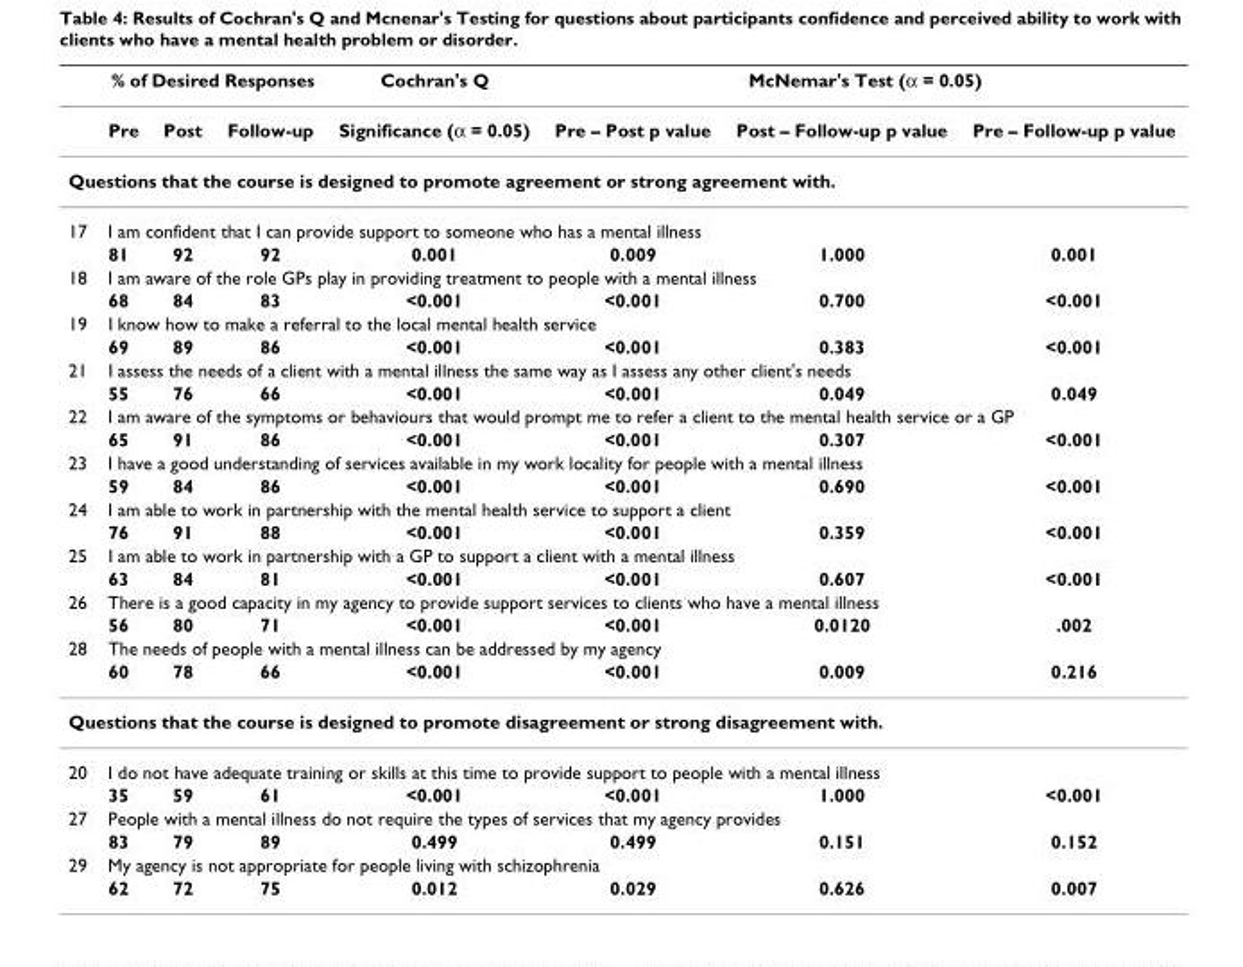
<table><thead><tr><td rowspan="2"></td><td colspan="3">% of Desired Responses</td><td rowspan="2">Cochran&#x27;s Q Significance (α = 0.05)</td><td colspan="3">McNemar&#x27;s Test (α = 0.05)</td></tr><tr><td>Pre</td><td>Post</td><td>Follow-up</td><td>Pre – Post p value</td><td>Post – Follow-up p value</td><td>Pre – Follow-up p value</td></tr></thead><tbody><tr><td colspan="8">Questions that the course is designed to promote agreement or strong agreement with.</td></tr><tr><td rowspan="2">17</td><td colspan="7">I am confident that I can provide support to someone who has a mental illness</td></tr><tr><td>81</td><td>92</td><td>92</td><td>0.001</td><td>0.009</td><td>1.000</td><td>0.001</td></tr><tr><td rowspan="2">18</td><td colspan="7">I am aware of the role GPs play in providing treatment to people with a mental illness</td></tr><tr><td>68</td><td>84</td><td>83</td><td>&lt;0.001</td><td>&lt;0.001</td><td>0.700</td><td>&lt;0.001</td></tr><tr><td rowspan="2">19</td><td colspan="7">I know how to make a referral to the local mental health service</td></tr><tr><td>69</td><td>89</td><td>86</td><td>&lt;0.001</td><td>&lt;0.001</td><td>0.383</td><td>&lt;0.001</td></tr><tr><td rowspan="2">21</td><td colspan="7">I assess the needs of a client with a mental illness the same way as I assess any other client&#x27;s needs</td></tr><tr><td>55</td><td>76</td><td>66</td><td>&lt;0.001</td><td>&lt;0.001</td><td>0.049</td><td>0.049</td></tr><tr><td rowspan="2">22</td><td colspan="7">I am aware of the symptoms or behaviours that would prompt me to refer a client to the mental health service or a GP</td></tr><tr><td>65</td><td>91</td><td>86</td><td>&lt;0.001</td><td>&lt;0.001</td><td>0.307</td><td>&lt;0.001</td></tr><tr><td rowspan="2">23</td><td colspan="7">I have a good understanding of services available in my work locality for people with a mental illness</td></tr><tr><td>59</td><td>84</td><td>86</td><td>&lt;0.001</td><td>&lt;0.001</td><td>0.690</td><td>&lt;0.001</td></tr><tr><td rowspan="2">24</td><td colspan="7">I am able to work in partnership with the mental health service to support a client</td></tr><tr><td>76</td><td>91</td><td>88</td><td>&lt;0.001</td><td>&lt;0.001</td><td>0.359</td><td>&lt;0.001</td></tr><tr><td rowspan="2">25</td><td colspan="7">I am able to work in partnership with a GP to support a client with a mental illness</td></tr><tr><td>63</td><td>84</td><td>81</td><td>&lt;0.001</td><td>&lt;0.001</td><td>0.607</td><td>&lt;0.001</td></tr><tr><td rowspan="2">26</td><td colspan="7">There is a good capacity in my agency to provide support services to clients who have a mental illness</td></tr><tr><td>56</td><td>80</td><td>71</td><td>&lt;0.001</td><td>&lt;0.001</td><td>0.0120</td><td>.002</td></tr><tr><td rowspan="2">28</td><td colspan="7">The needs of people with a mental illness can be addressed by my agency</td></tr><tr><td>60</td><td>78</td><td>66</td><td>&lt;0.001</td><td>&lt;0.001</td><td>0.009</td><td>0.216</td></tr><tr><td colspan="8">Questions that the course is designed to promote disagreement or strong disagreement with.</td></tr><tr><td rowspan="2">20</td><td colspan="7">I do not have adequate training or skills at this time to provide support to people with a mental illness</td></tr><tr><td>35</td><td>59</td><td>61</td><td>&lt;0.001</td><td>&lt;0.001</td><td>1.000</td><td>&lt;0.001</td></tr><tr><td rowspan="2">27</td><td colspan="7">People with a mental illness do not require the types of services that my agency provides</td></tr><tr><td>83</td><td>79</td><td>89</td><td>0.499</td><td>0.499</td><td>0.151</td><td>0.152</td></tr><tr><td rowspan="2">29</td><td colspan="7">My agency is not appropriate for people living with schizophrenia</td></tr><tr><td>62</td><td>72</td><td>75</td><td>0.012</td><td>0.029</td><td>0.626</td><td>0.007</td></tr></tbody></table>